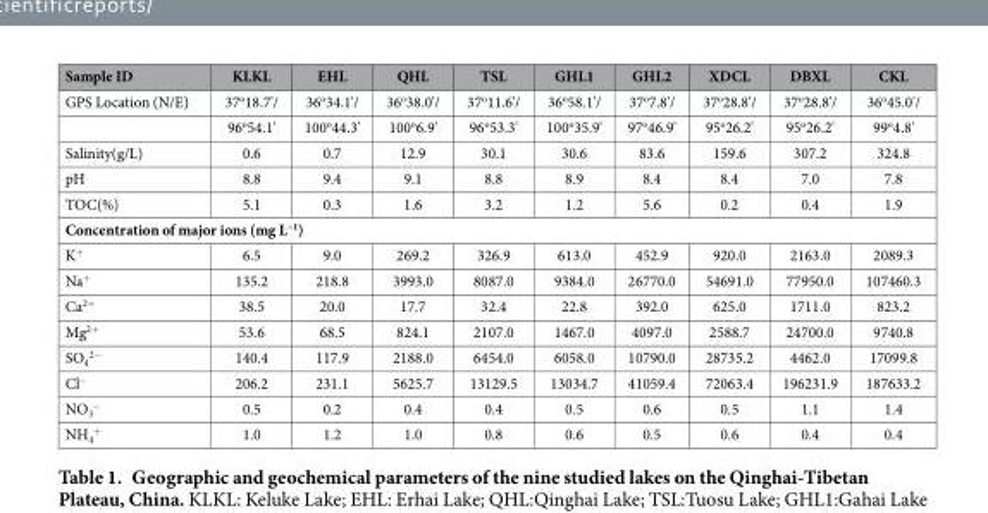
<table><thead><tr><td>Sample ID</td><td>KLKL</td><td>EHL</td><td>QHL</td><td>TSL</td><td>GHL1</td><td>GHL2</td><td>XDCL</td><td>DBXL</td><td>CKL</td></tr></thead><tbody><tr><td rowspan="2">GPS Location (N/E)</td><td>37<sup>o</sup>18.7&#x27;/</td><td>36<sup>o</sup>34.1&#x27;/</td><td>36<sup>o</sup>38.0&#x27;/</td><td>37<sup>o</sup>11.6&#x27;/</td><td>36<sup>o</sup>58.1&#x27;/</td><td>37<sup>o</sup>7.8&#x27;/</td><td>37<sup>o</sup>28.8&#x27;/</td><td>37<sup>o</sup>28.8&#x27;/</td><td>36<sup>o</sup>45.0&#x27;/</td></tr><tr><td>96<sup>o</sup>54.1&#x27;</td><td>100<sup>o</sup>44.3&#x27;</td><td>100<sup>o</sup>6.9&#x27;</td><td>96<sup>o</sup>53.3&#x27;</td><td>100<sup>o</sup>35.9&#x27;</td><td>97<sup>o</sup>46.9&#x27;</td><td>95<sup>o</sup>26.2&#x27;</td><td>95<sup>o</sup>26.2&#x27;</td><td>99<sup>o</sup>4.8&#x27;</td></tr><tr><td>Salinity(g/L)</td><td>0.6</td><td>0.7</td><td>12.9</td><td>30.1</td><td>30.6</td><td>83.6</td><td>159.6</td><td>307.2</td><td>324.8</td></tr><tr><td>pH</td><td>8.8</td><td>9.4</td><td>9.1</td><td>8.8</td><td>8.9</td><td>8.4</td><td>8.4</td><td>7.0</td><td>7.8</td></tr><tr><td>TOC(%)</td><td>5.1</td><td>0.3</td><td>1.6</td><td>3.2</td><td>1.2</td><td>5.6</td><td>0.2</td><td>0.4</td><td>1.9</td></tr><tr><td colspan="10">Concentration of major ions (mg L<sup>−1</sup>)</td></tr><tr><td>K<sup>+</sup></td><td>6.5</td><td>9.0</td><td>269.2</td><td>326.9</td><td>613.0</td><td>452.9</td><td>920.0</td><td>2163.0</td><td>2089.3</td></tr><tr><td>Na<sup>+</sup></td><td>135.2</td><td>218.8</td><td>3993.0</td><td>8087.0</td><td>9384.0</td><td>26770.0</td><td>54691.0</td><td>77950.0</td><td>107460.3</td></tr><tr><td>Ca<sup>2+</sup></td><td>38.5</td><td>20.0</td><td>17.7</td><td>32.4</td><td>22.8</td><td>392.0</td><td>625.0</td><td>1711.0</td><td>823.2</td></tr><tr><td>Mg<sup>2+</sup></td><td>53.6</td><td>68.5</td><td>824.1</td><td>2107.0</td><td>1467.0</td><td>4097.0</td><td>2588.7</td><td>24700.0</td><td>9740.8</td></tr><tr><td>SO<sub>4</sub> <sup>2−</sup></td><td>140.4</td><td>117.9</td><td>2188.0</td><td>6454.0</td><td>6058.0</td><td>10790.0</td><td>28735.2</td><td>4462.0</td><td>17099.8</td></tr><tr><td>Cl<sup>−</sup></td><td>206.2</td><td>231.1</td><td>5625.7</td><td>13129.5</td><td>13034.7</td><td>41059.4</td><td>72063.4</td><td>196231.9</td><td>187633.2</td></tr><tr><td>NO<sub>3</sub> <sup>−</sup></td><td>0.5</td><td>0.2</td><td>0.4</td><td>0.4</td><td>0.5</td><td>0.6</td><td>0.5</td><td>1.1</td><td>1.4</td></tr><tr><td>NH<sub>4</sub> <sup>+</sup></td><td>1.0</td><td>1.2</td><td>1.0</td><td>0.8</td><td>0.6</td><td>0.5</td><td>0.6</td><td>0.4</td><td>0.4</td></tr></tbody></table>